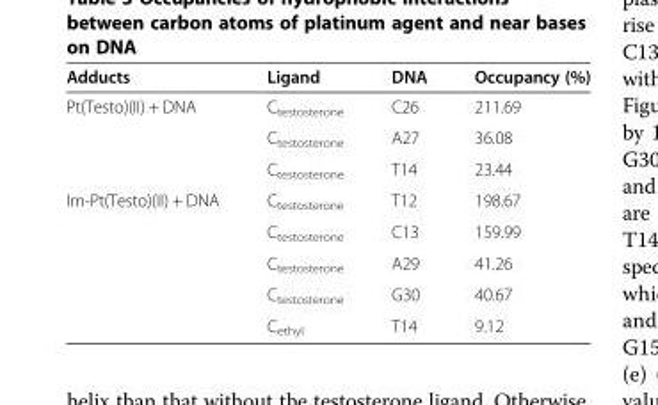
<table><thead><tr><td>Adducts</td><td>Ligand</td><td>DNA</td><td>Occupancy (%)</td></tr></thead><tbody><tr><td rowspan="3">Pt(Testo)(II) + DNA</td><td>C<sub>testosterone</sub></td><td>C26</td><td>211.69</td></tr><tr><td>C<sub>testosterone</sub></td><td>A27</td><td>36.08</td></tr><tr><td>C<sub>testosterone</sub></td><td>T14</td><td>23.44</td></tr><tr><td rowspan="5">Im-Pt(Testo)(II) + DNA</td><td>C<sub>testosterone</sub></td><td>T12</td><td>198.67</td></tr><tr><td>C<sub>testosterone</sub></td><td>C13</td><td>159.99</td></tr><tr><td>C<sub>testosterone</sub></td><td>A29</td><td>41.26</td></tr><tr><td>C<sub>testosterone</sub></td><td>G30</td><td>40.67</td></tr><tr><td>C<sub>ethyl</sub></td><td>T14</td><td>9.12</td></tr></tbody></table>